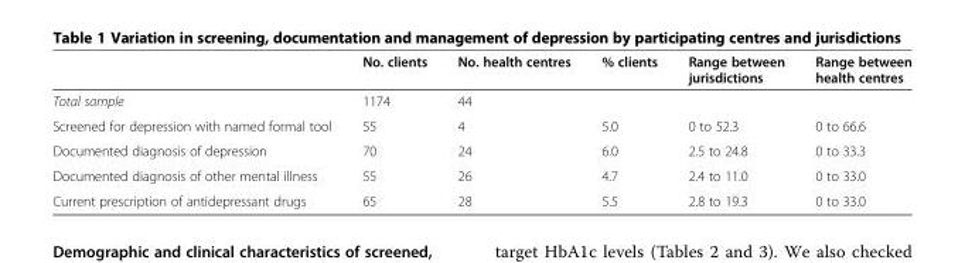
<table><thead><tr><td></td><td>No. clients</td><td>No. health centres</td><td>% clients</td><td>Range between jurisdictions</td><td>Range between health centres</td></tr></thead><tbody><tr><td>Total sample</td><td>1174</td><td>44</td><td></td><td></td><td></td></tr><tr><td>Screened for depression with named formal tool</td><td>55</td><td>4</td><td>5.0</td><td>0 to 52.3</td><td>0 to 66.6</td></tr><tr><td>Documented diagnosis of depression</td><td>70</td><td>24</td><td>6.0</td><td>2.5 to 24.8</td><td>0 to 33.3</td></tr><tr><td>Documented diagnosis of other mental illness</td><td>55</td><td>26</td><td>4.7</td><td>2.4 to 11.0</td><td>0 to 33.0</td></tr><tr><td>Current prescription of antidepressant drugs</td><td>65</td><td>28</td><td>5.5</td><td>2.8 to 19.3</td><td>0 to 33.0</td></tr></tbody></table>